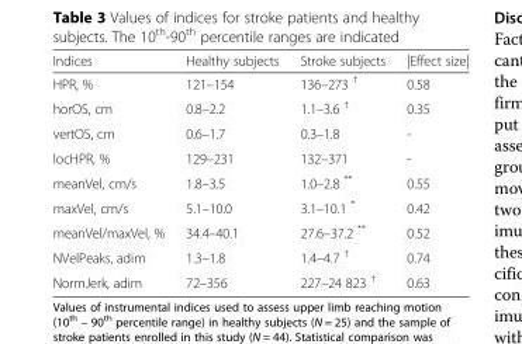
<table><thead><tr><td>Indices</td><td>Healthy subjects</td><td>Stroke subjects</td><td>|Effect size|</td></tr></thead><tbody><tr><td>HPR, %</td><td>121–154</td><td>136–273 <sup>†</sup></td><td>0.58</td></tr><tr><td>horOS, cm</td><td>0.8–2.2</td><td>1.1–3.6 <sup>†</sup></td><td>0.35</td></tr><tr><td>vertOS, cm</td><td>0.6–1.7</td><td>0.3–1.8</td><td>-</td></tr><tr><td>locHPR, %</td><td>129–231</td><td>132–371</td><td>-</td></tr><tr><td>meanVel, cm/s</td><td>1.8–3.5</td><td>1.0–2.8 **</td><td>0.55</td></tr><tr><td>maxVel, cm/s</td><td>5.1–10.0</td><td>3.1–10.1 *</td><td>0.42</td></tr><tr><td>meanVel/maxVel, %</td><td>34.4–40.1</td><td>27.6–37.2 **</td><td>0.52</td></tr><tr><td>NVelPeaks, adim</td><td>1.3–1.8</td><td>1.4–4.7 <sup>†</sup></td><td>0.74</td></tr><tr><td>NormJerk, adim</td><td>72–356</td><td>227–24 823 <sup>†</sup></td><td>0.63</td></tr></tbody></table>